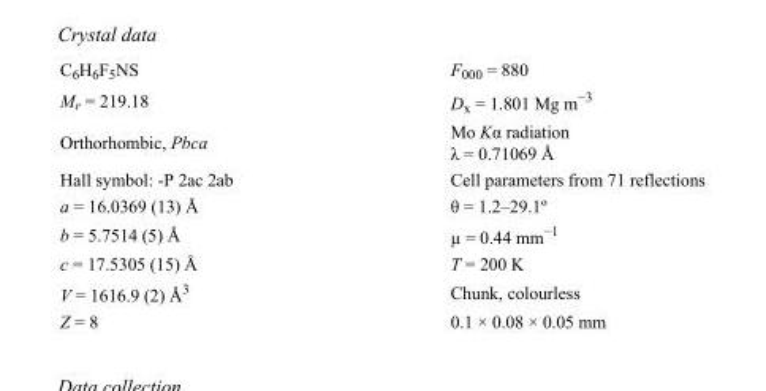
<table><tbody><tr><td>C<sub>6</sub>H<sub>6</sub>F<sub>5</sub>NS</td><td>F<sub>000</sub> = 880</td></tr><tr><td>M<sub>r</sub> = 219.18</td><td>D<sub>x</sub> = 1.801 Mg m<sup>−3</sup></td></tr><tr><td>Orthorhombic, Pbca</td><td>Mo Kα radiation λ = 0.71069 Å</td></tr><tr><td>Hall symbol: -P 2ac 2ab</td><td>Cell parameters from 71 reflections</td></tr><tr><td>a = 16.0369 (13) Å</td><td>θ = 1.2–29.1º</td></tr><tr><td>b = 5.7514 (5) Å</td><td>µ = 0.44 mm<sup>−1</sup></td></tr><tr><td>c = 17.5305 (15) Å</td><td>T = 200 K</td></tr><tr><td>V = 1616.9 (2) Å<sup>3</sup></td><td>Chunk, colourless</td></tr><tr><td>Z = 8</td><td>0.1 × 0.08 × 0.05 mm</td></tr></tbody></table>